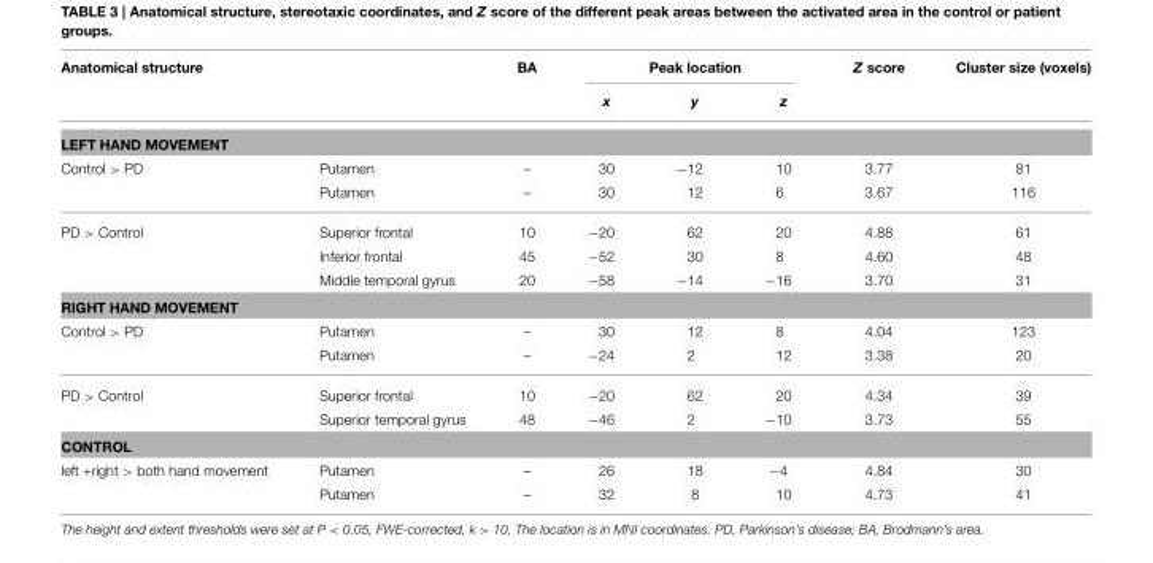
<table><thead><tr><td colspan="2">Anatomical structure</td><td rowspan="2">BA</td><td colspan="3">Peak location</td><td rowspan="2">Z score</td><td rowspan="2">Cluster size (voxels)</td></tr><tr><td></td><td></td><td>x</td><td>y</td><td>z</td></tr></thead><tbody><tr><td colspan="8">LEFT HAND MOVEMENT</td></tr><tr><td rowspan="2">Control &gt; PD</td><td>Putamen</td><td>–</td><td>30</td><td>−12</td><td>10</td><td>3.77</td><td>81</td></tr><tr><td>Putamen</td><td>–</td><td>30</td><td>12</td><td>6</td><td>3.67</td><td>116</td></tr><tr><td rowspan="3">PD &gt; Control</td><td>Superior frontal</td><td>10</td><td>−20</td><td>62</td><td>20</td><td>4.88</td><td>61</td></tr><tr><td>Inferior frontal</td><td>45</td><td>−52</td><td>30</td><td>8</td><td>4.60</td><td>48</td></tr><tr><td>Middle temporal gyrus</td><td>20</td><td>−58</td><td>−14</td><td>−16</td><td>3.70</td><td>31</td></tr><tr><td colspan="8">RIGHT HAND MOVEMENT</td></tr><tr><td rowspan="2">Control &gt; PD</td><td>Putamen</td><td>–</td><td>30</td><td>12</td><td>8</td><td>4.04</td><td>123</td></tr><tr><td>Putamen</td><td>–</td><td>−24</td><td>2</td><td>12</td><td>3.38</td><td>20</td></tr><tr><td rowspan="2">PD &gt; Control</td><td>Superior frontal</td><td>10</td><td>−20</td><td>62</td><td>20</td><td>4.34</td><td>39</td></tr><tr><td>Superior temporal gyrus</td><td>48</td><td>−46</td><td>2</td><td>−10</td><td>3.73</td><td>55</td></tr><tr><td colspan="8">CONTROL</td></tr><tr><td rowspan="2">left +right &gt; both hand movement</td><td>Putamen</td><td>–</td><td>26</td><td>18</td><td>−4</td><td>4.84</td><td>30</td></tr><tr><td>Putamen</td><td>–</td><td>32</td><td>8</td><td>10</td><td>4.73</td><td>41</td></tr></tbody></table>